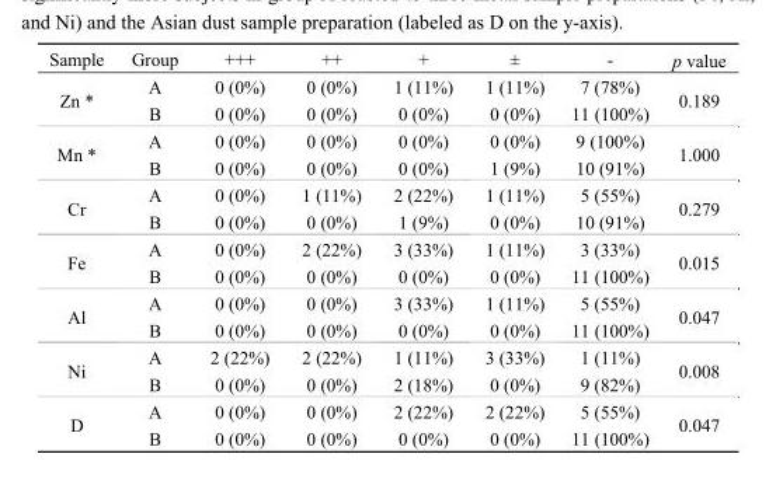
<table><thead><tr><td>Sample</td><td>Group</td><td>+++</td><td>++</td><td>+</td><td>±</td><td>-</td><td>p value</td></tr></thead><tbody><tr><td rowspan="2">Zn *</td><td>A</td><td>0 (0%)</td><td>0 (0%)</td><td>1 (11%)</td><td>1 (11%)</td><td>7 (78%)</td><td rowspan="2">0.189</td></tr><tr><td>B</td><td>0 (0%)</td><td>0 (0%)</td><td>0 (0%)</td><td>0 (0%)</td><td>11 (100%)</td></tr><tr><td rowspan="2">Mn *</td><td>A</td><td>0 (0%)</td><td>0 (0%)</td><td>0 (0%)</td><td>0 (0%)</td><td>9 (100%)</td><td rowspan="2">1.000</td></tr><tr><td>B</td><td>0 (0%)</td><td>0 (0%)</td><td>0 (0%)</td><td>1 (9%)</td><td>10 (91%)</td></tr><tr><td rowspan="2">Cr</td><td>A</td><td>0 (0%)</td><td>1 (11%)</td><td>2 (22%)</td><td>1 (11%)</td><td>5 (55%)</td><td rowspan="2">0.279</td></tr><tr><td>B</td><td>0 (0%)</td><td>0 (0%)</td><td>1 (9%)</td><td>0 (0%)</td><td>10 (91%)</td></tr><tr><td rowspan="2">Fe</td><td>A</td><td>0 (0%)</td><td>2 (22%)</td><td>3 (33%)</td><td>1 (11%)</td><td>3 (33%)</td><td rowspan="2">0.015</td></tr><tr><td>B</td><td>0 (0%)</td><td>0 (0%)</td><td>0 (0%)</td><td>0 (0%)</td><td>11 (100%)</td></tr><tr><td rowspan="2">Al</td><td>A</td><td>0 (0%)</td><td>0 (0%)</td><td>3 (33%)</td><td>1 (11%)</td><td>5 (55%)</td><td rowspan="2">0.047</td></tr><tr><td>B</td><td>0 (0%)</td><td>0 (0%)</td><td>0 (0%)</td><td>0 (0%)</td><td>11 (100%)</td></tr><tr><td rowspan="2">Ni</td><td>A</td><td>2 (22%)</td><td>2 (22%)</td><td>1 (11%)</td><td>3 (33%)</td><td>1 (11%)</td><td rowspan="2">0.008</td></tr><tr><td>B</td><td>0 (0%)</td><td>0 (0%)</td><td>2 (18%)</td><td>0 (0%)</td><td>9 (82%)</td></tr><tr><td rowspan="2">D</td><td>A</td><td>0 (0%)</td><td>0 (0%)</td><td>2 (22%)</td><td>2 (22%)</td><td>5 (55%)</td><td rowspan="2">0.047</td></tr><tr><td>B</td><td>0 (0%)</td><td>0 (0%)</td><td>0 (0%)</td><td>0 (0%)</td><td>11 (100%)</td></tr></tbody></table>